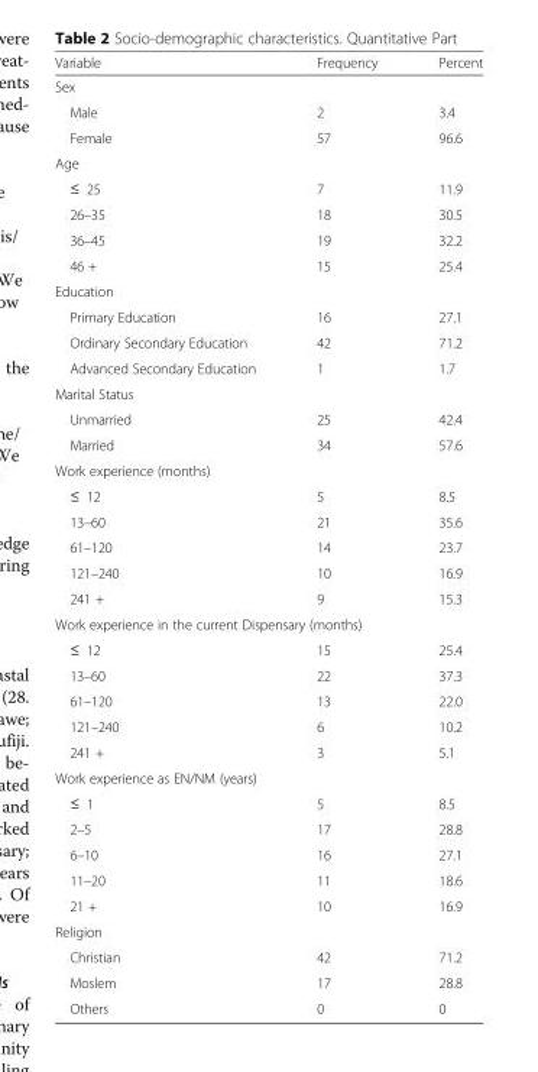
<table><thead><tr><td>Variable</td><td>Frequency</td><td>Percent</td></tr></thead><tbody><tr><td colspan="3">Sex</td></tr><tr><td>Male</td><td>2</td><td>3.4</td></tr><tr><td>Female</td><td>57</td><td>96.6</td></tr><tr><td colspan="3">Age</td></tr><tr><td>≤ 25</td><td>7</td><td>11.9</td></tr><tr><td>26–35</td><td>18</td><td>30.5</td></tr><tr><td>36–45</td><td>19</td><td>32.2</td></tr><tr><td>46 +</td><td>15</td><td>25.4</td></tr><tr><td colspan="3">Education</td></tr><tr><td>Primary Education</td><td>16</td><td>27.1</td></tr><tr><td>Ordinary Secondary Education</td><td>42</td><td>71.2</td></tr><tr><td>Advanced Secondary Education</td><td>1</td><td>1.7</td></tr><tr><td colspan="3">Marital Status</td></tr><tr><td>Unmarried</td><td>25</td><td>42.4</td></tr><tr><td>Married</td><td>34</td><td>57.6</td></tr><tr><td colspan="3">Work experience (months)</td></tr><tr><td>≤ 12</td><td>5</td><td>8.5</td></tr><tr><td>13–60</td><td>21</td><td>35.6</td></tr><tr><td>61–120</td><td>14</td><td>23.7</td></tr><tr><td>121–240</td><td>10</td><td>16.9</td></tr><tr><td>241 +</td><td>9</td><td>15.3</td></tr><tr><td colspan="3">Work experience in the current Dispensary (months)</td></tr><tr><td>≤ 12</td><td>15</td><td>25.4</td></tr><tr><td>13–60</td><td>22</td><td>37.3</td></tr><tr><td>61–120</td><td>13</td><td>22.0</td></tr><tr><td>121–240</td><td>6</td><td>10.2</td></tr><tr><td>241 +</td><td>3</td><td>5.1</td></tr><tr><td colspan="3">Work experience as EN/NM (years)</td></tr><tr><td>≤ 1</td><td>5</td><td>8.5</td></tr><tr><td>2–5</td><td>17</td><td>28.8</td></tr><tr><td>6–10</td><td>16</td><td>27.1</td></tr><tr><td>11–20</td><td>11</td><td>18.6</td></tr><tr><td>21 +</td><td>10</td><td>16.9</td></tr><tr><td colspan="3">Religion</td></tr><tr><td>Christian</td><td>42</td><td>71.2</td></tr><tr><td>Moslem</td><td>17</td><td>28.8</td></tr><tr><td>Others</td><td>0</td><td>0</td></tr></tbody></table>